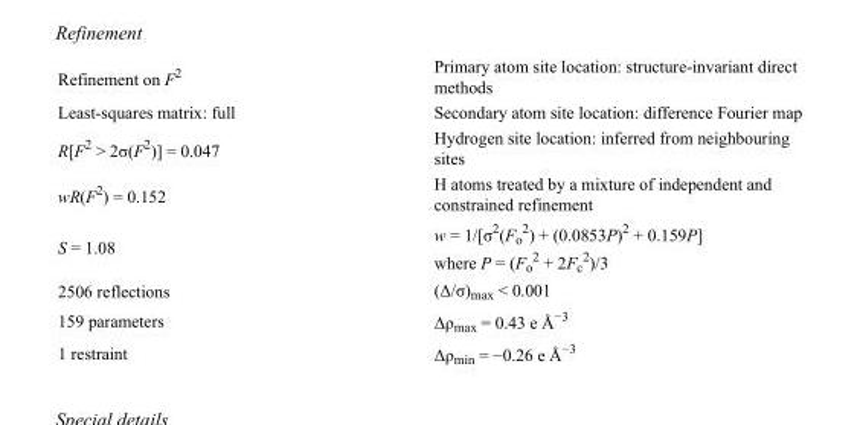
<table><tbody><tr><td>Refinement on F<sup>2</sup></td><td>Primary atom site location: structure-invariant direct methods</td></tr><tr><td>Least-squares matrix: full</td><td>Secondary atom site location: difference Fourier map</td></tr><tr><td>R[F<sup>2</sup> &gt; 2σ(F<sup>2</sup>)] = 0.047</td><td>Hydrogen site location: inferred from neighbouring sites</td></tr><tr><td>wR(F<sup>2</sup>) = 0.152</td><td>H atoms treated by a mixture of independent and constrained refinement</td></tr><tr><td>S = 1.08</td><td>w = 1/[σ<sup>2</sup>(F<sub>o</sub> <sup>2</sup>) + (0.0853P)<sup>2</sup> + 0.159P] where P = (F<sub>o</sub> <sup>2</sup> + 2F<sub>c</sub> <sup>2</sup>)/3</td></tr><tr><td>2506 reflections</td><td>(Δ/σ)<sub>max</sub> &lt; 0.001</td></tr><tr><td>159 parameters</td><td>Δρ<sub>max</sub> = 0.43 e Å<sup>−3</sup></td></tr><tr><td>1 restraint</td><td>Δρ<sub>min</sub> = −0.26 e Å<sup>−3</sup></td></tr></tbody></table>